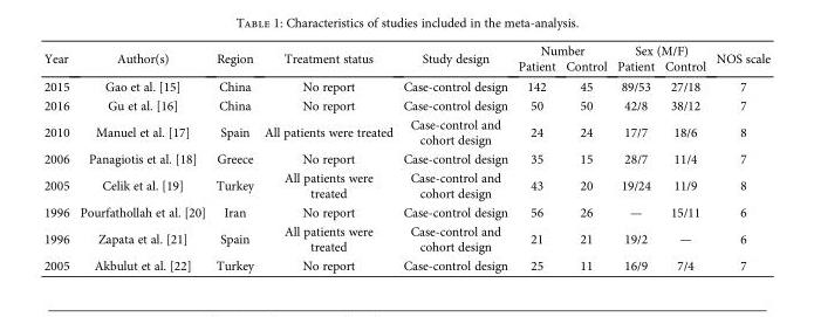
<table><thead><tr><td rowspan="2">Year</td><td rowspan="2">Author(s)</td><td rowspan="2">Region</td><td rowspan="2">Treatment status</td><td rowspan="2">Study design</td><td colspan="2">Number</td><td colspan="2">Sex (M/F)</td><td rowspan="2">NOS scale</td></tr><tr><td>Patient</td><td>Control</td><td>Patient</td><td>Control</td></tr></thead><tbody><tr><td>2015</td><td>Gao et al. [15]</td><td>China</td><td>No report</td><td>Case-control design</td><td>142</td><td>45</td><td>89/53</td><td>27/18</td><td>7</td></tr><tr><td>2016</td><td>Gu et al. [16]</td><td>China</td><td>No report</td><td>Case-control design</td><td>50</td><td>50</td><td>42/8</td><td>38/12</td><td>7</td></tr><tr><td>2010</td><td>Manuel et al. [17]</td><td>Spain</td><td>All patients were treated</td><td>Case-control and cohort design</td><td>24</td><td>24</td><td>17/7</td><td>18/6</td><td>8</td></tr><tr><td>2006</td><td>Panagiotis et al. [18]</td><td>Greece</td><td>No report</td><td>Case-control design</td><td>35</td><td>15</td><td>28/7</td><td>11/4</td><td>7</td></tr><tr><td>2005</td><td>Celik et al. [19]</td><td>Turkey</td><td>All patients were treated</td><td>Case-control and cohort design</td><td>43</td><td>20</td><td>19/24</td><td>11/9</td><td>8</td></tr><tr><td>1996</td><td>Pourfathollah et al. [20]</td><td>Iran</td><td>No report</td><td>Case-control design</td><td>56</td><td>26</td><td>—</td><td>15/11</td><td>6</td></tr><tr><td>1996</td><td>Zapata et al. [21]</td><td>Spain</td><td>All patients were treated</td><td>Case-control and cohort design</td><td>21</td><td>21</td><td>19/2</td><td>—</td><td>6</td></tr><tr><td>2005</td><td>Akbulut et al. [22]</td><td>Turkey</td><td>No report</td><td>Case-control design</td><td>25</td><td>11</td><td>16/9</td><td>7/4</td><td>7</td></tr></tbody></table>